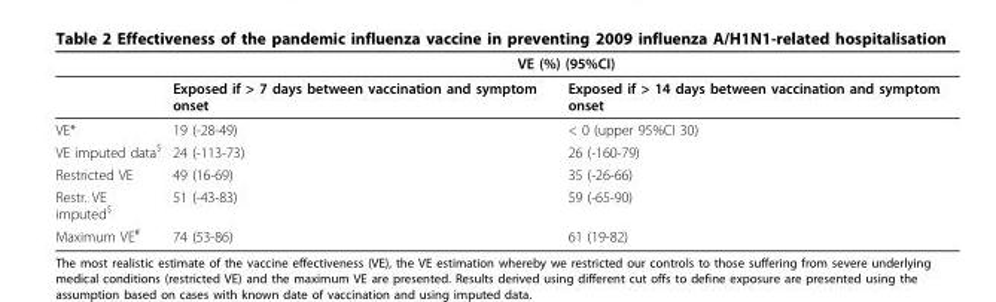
<table><thead><tr><td rowspan="2"></td><td colspan="2">VE (%) (95%CI)</td></tr><tr><td>Exposed if &gt; 7 days between vaccination and symptom onset</td><td>Exposed if &gt; 14 days between vaccination and symptom onset</td></tr></thead><tbody><tr><td>VE*</td><td>19 (-28-49)</td><td>&lt; 0 (upper 95%CI 30)</td></tr><tr><td>VE imputed data<sup>$</sup></td><td>24 (-113-73)</td><td>26 (-160-79)</td></tr><tr><td>Restricted VE</td><td>49 (16-69)</td><td>35 (-26-66)</td></tr><tr><td>Restr. VE imputed<sup>$</sup></td><td>51 (-43-83)</td><td>59 (-65-90)</td></tr><tr><td>Maximum VE<sup>#</sup></td><td>74 (53-86)</td><td>61 (19-82)</td></tr></tbody></table>